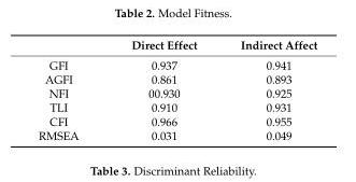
<table><thead><tr><td></td><td>Direct Effect</td><td>Indirect Affect</td></tr></thead><tbody><tr><td>GFI</td><td>0.937</td><td>0.941</td></tr><tr><td>AGFI</td><td>0.861</td><td>0.893</td></tr><tr><td>NFI</td><td>00.930</td><td>0.925</td></tr><tr><td>TLI</td><td>0.910</td><td>0.931</td></tr><tr><td>CFI</td><td>0.966</td><td>0.955</td></tr><tr><td>RMSEA</td><td>0.031</td><td>0.049</td></tr></tbody></table>